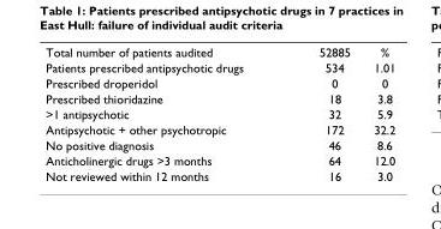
<table><tbody><tr><td>Total number of patients audited</td><td>52885</td><td>%</td></tr><tr><td>Patients prescribed antipsychotic drugs</td><td>534</td><td>1.01</td></tr><tr><td>Prescribed droperidol</td><td>0</td><td>0</td></tr><tr><td>Prescribed thioridazine</td><td>18</td><td>3.8</td></tr><tr><td>&gt;1 antipsychotic</td><td>32</td><td>5.9</td></tr><tr><td>Antipsychotic + other psychotropic</td><td>172</td><td>32.2</td></tr><tr><td>No positive diagnosis</td><td>46</td><td>8.6</td></tr><tr><td>Anticholinergic drugs &gt;3 months</td><td>64</td><td>12.0</td></tr><tr><td>Not reviewed within 12 months</td><td>16</td><td>3.0</td></tr></tbody></table>